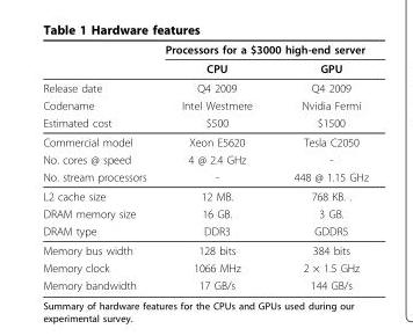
<table><thead><tr><td rowspan="2"></td><td colspan="2">Processors for a $3000 high-end server</td></tr><tr><td>CPU</td><td>GPU</td></tr></thead><tbody><tr><td>Release date</td><td>Q4 2009</td><td>Q4 2009</td></tr><tr><td>Codename</td><td>Intel Westmere</td><td>Nvidia Fermi</td></tr><tr><td>Estimated cost</td><td>$500</td><td>$1500</td></tr><tr><td>Commercial model</td><td>Xeon E5620</td><td>Tesla C2050</td></tr><tr><td>No. cores @ speed</td><td>4 @ 2.4 GHz</td><td>-</td></tr><tr><td>No. stream processors</td><td>-</td><td>448 @ 1.15 GHz</td></tr><tr><td>L2 cache size</td><td>12 MB.</td><td>768 KB. .</td></tr><tr><td>DRAM memory size</td><td>16 GB.</td><td>3 GB.</td></tr><tr><td>DRAM type</td><td>DDR3</td><td>GDDR5</td></tr><tr><td>Memory bus width</td><td>128 bits</td><td>384 bits</td></tr><tr><td>Memory clock</td><td>1066 MHz</td><td>2 × 1.5 GHz</td></tr><tr><td>Memory bandwidth</td><td>17 GB/s</td><td>144 GB/s</td></tr></tbody></table>